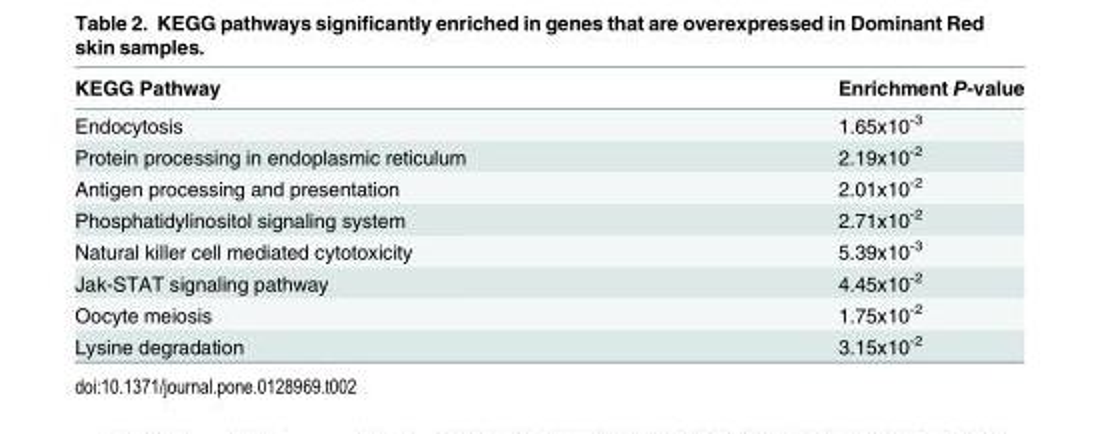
<table><thead><tr><td>KEGG Pathway</td><td>Enrichment P-value</td></tr></thead><tbody><tr><td>Endocytosis</td><td>1.65x10<sup>-3</sup></td></tr><tr><td>Protein processing in endoplasmic reticulum</td><td>2.19x10<sup>-2</sup></td></tr><tr><td>Antigen processing and presentation</td><td>2.01x10<sup>-2</sup></td></tr><tr><td>Phosphatidylinositol signaling system</td><td>2.71x10<sup>-2</sup></td></tr><tr><td>Natural killer cell mediated cytotoxicity</td><td>5.39x10<sup>-3</sup></td></tr><tr><td>Jak-STAT signaling pathway</td><td>4.45x10<sup>-2</sup></td></tr><tr><td>Oocyte meiosis</td><td>1.75x10<sup>-2</sup></td></tr><tr><td>Lysine degradation</td><td>3.15x10<sup>-2</sup></td></tr></tbody></table>